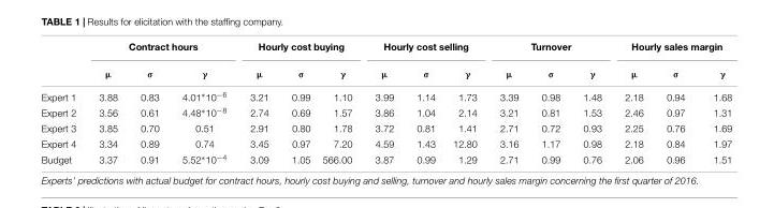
<table><thead><tr><td rowspan="2"></td><td colspan="3">Contract hours</td><td colspan="3">Hourly cost buying</td><td colspan="3">Hourly cost selling</td><td colspan="3">Turnover</td><td colspan="3">Hourly sales margin</td></tr><tr><td>µ</td><td>σ</td><td>γ</td><td>µ</td><td>σ</td><td>γ</td><td>µ</td><td>σ</td><td>γ</td><td>µ</td><td>σ</td><td>γ</td><td>µ</td><td>σ</td><td>γ</td></tr></thead><tbody><tr><td>Expert 1</td><td>3.88</td><td>0.83</td><td>4.01∗10<sup>−6</sup></td><td>3.21</td><td>0.99</td><td>1.10</td><td>3.99</td><td>1.14</td><td>1.73</td><td>3.39</td><td>0.98</td><td>1.48</td><td>2.18</td><td>0.94</td><td>1.68</td></tr><tr><td>Expert 2</td><td>3.56</td><td>0.61</td><td>4.48∗10<sup>−8</sup></td><td>2.74</td><td>0.69</td><td>1.57</td><td>3.86</td><td>1.04</td><td>2.14</td><td>3.21</td><td>0.81</td><td>1.53</td><td>2.46</td><td>0.97</td><td>1.31</td></tr><tr><td>Expert 3</td><td>3.85</td><td>0.70</td><td>0.51</td><td>2.91</td><td>0.80</td><td>1.78</td><td>3.72</td><td>0.81</td><td>1.41</td><td>2.71</td><td>0.72</td><td>0.93</td><td>2.25</td><td>0.76</td><td>1.69</td></tr><tr><td>Expert 4</td><td>3.34</td><td>0.89</td><td>0.74</td><td>3.45</td><td>0.97</td><td>7.20</td><td>4.59</td><td>1.43</td><td>12.80</td><td>3.16</td><td>1.17</td><td>0.98</td><td>2.18</td><td>0.84</td><td>1.97</td></tr><tr><td>Budget</td><td>3.37</td><td>0.91</td><td>5.52∗10<sup>−4</sup></td><td>3.09</td><td>1.05</td><td>566.00</td><td>3.87</td><td>0.99</td><td>1.29</td><td>2.71</td><td>0.99</td><td>0.76</td><td>2.06</td><td>0.96</td><td>1.51</td></tr></tbody></table>